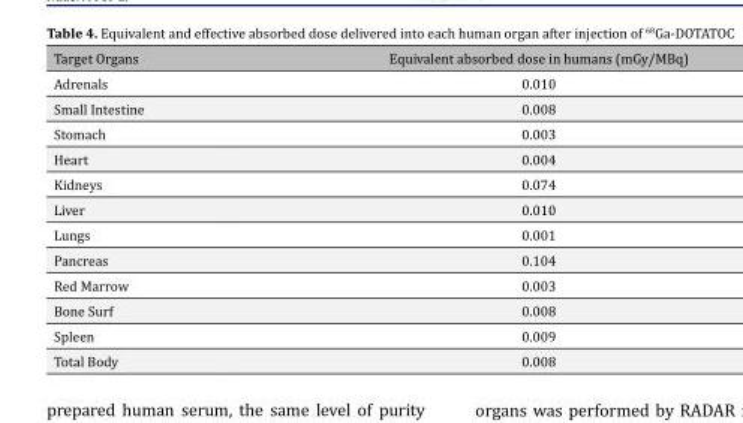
<table><thead><tr><td>Target Organs</td><td>Equivalent absorbed dose in humans (mGy/MBq)</td></tr></thead><tbody><tr><td>Adrenals</td><td>0.010</td></tr><tr><td>Small Intestine</td><td>0.008</td></tr><tr><td>Stomach</td><td>0.003</td></tr><tr><td>Heart</td><td>0.004</td></tr><tr><td>Kidneys</td><td>0.074</td></tr><tr><td>Liver</td><td>0.010</td></tr><tr><td>Lungs</td><td>0.001</td></tr><tr><td>Pancreas</td><td>0.104</td></tr><tr><td>Red Marrow</td><td>0.003</td></tr><tr><td>Bone Surf</td><td>0.008</td></tr><tr><td>Spleen</td><td>0.009</td></tr><tr><td>Total Body</td><td>0.008</td></tr></tbody></table>